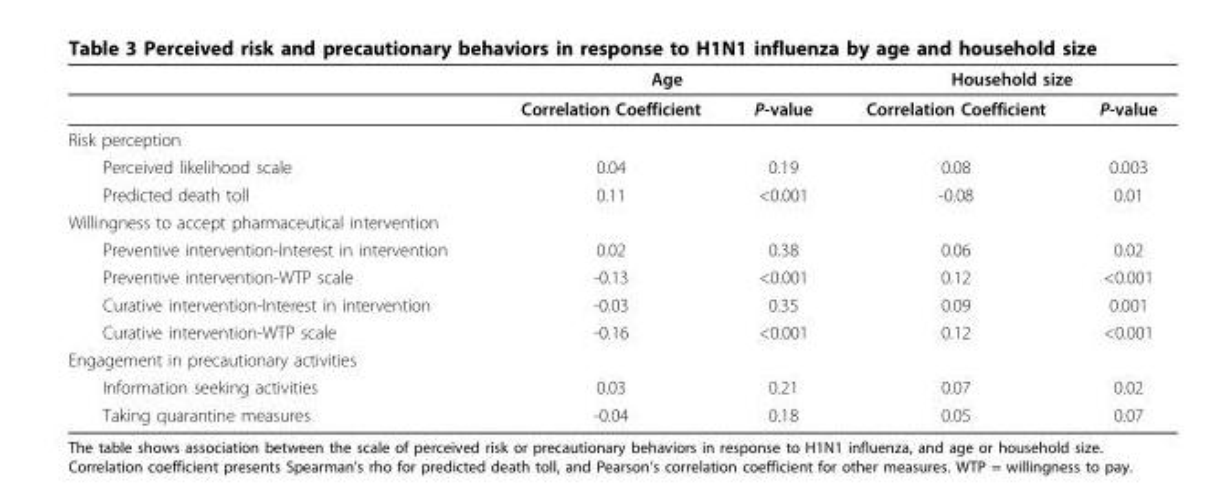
<table><thead><tr><td rowspan="2"></td><td colspan="2">Age</td><td colspan="2">Household size</td></tr><tr><td>Correlation Coefficient</td><td>P-value</td><td>Correlation Coefficient</td><td>P-value</td></tr></thead><tbody><tr><td colspan="5">Risk perception</td></tr><tr><td>Perceived likelihood scale</td><td>0.04</td><td>0.19</td><td>0.08</td><td>0.003</td></tr><tr><td>Predicted death toll</td><td>0.11</td><td>&lt;0.001</td><td>-0.08</td><td>0.01</td></tr><tr><td colspan="5">Willingness to accept pharmaceutical intervention</td></tr><tr><td>Preventive intervention-Interest in intervention</td><td>0.02</td><td>0.38</td><td>0.06</td><td>0.02</td></tr><tr><td>Preventive intervention-WTP scale</td><td>-0.13</td><td>&lt;0.001</td><td>0.12</td><td>&lt;0.001</td></tr><tr><td>Curative intervention-Interest in intervention</td><td>-0.03</td><td>0.35</td><td>0.09</td><td>0.001</td></tr><tr><td>Curative intervention-WTP scale</td><td>-0.16</td><td>&lt;0.001</td><td>0.12</td><td>&lt;0.001</td></tr><tr><td colspan="5">Engagement in precautionary activities</td></tr><tr><td>Information seeking activities</td><td>0.03</td><td>0.21</td><td>0.07</td><td>0.02</td></tr><tr><td>Taking quarantine measures</td><td>-0.04</td><td>0.18</td><td>0.05</td><td>0.07</td></tr></tbody></table>